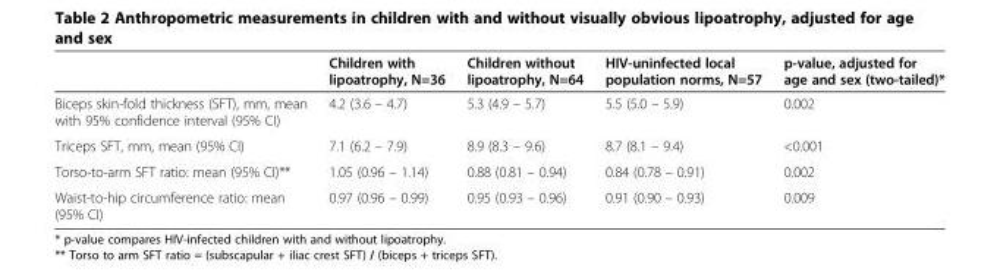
<table><thead><tr><td></td><td>Children with lipoatrophy, N=36</td><td>Children without lipoatrophy, N=64</td><td>HIV-uninfected local population norms, N=57</td><td>p-value, adjusted for age and sex (two-tailed)*</td></tr></thead><tbody><tr><td>Biceps skin-fold thickness (SFT), mm, mean with 95% confidence interval (95% CI)</td><td>4.2 (3.6 – 4.7)</td><td>5.3 (4.9 – 5.7)</td><td>5.5 (5.0 – 5.9)</td><td>0.002</td></tr><tr><td>Triceps SFT, mm, mean (95% CI)</td><td>7.1 (6.2 – 7.9)</td><td>8.9 (8.3 – 9.6)</td><td>8.7 (8.1 – 9.4)</td><td>&lt;0.001</td></tr><tr><td>Torso-to-arm SFT ratio: mean (95% CI)**</td><td>1.05 (0.96 – 1.14)</td><td>0.88 (0.81 – 0.94)</td><td>0.84 (0.78 – 0.91)</td><td>0.002</td></tr><tr><td>Waist-to-hip circumference ratio: mean (95% CI)</td><td>0.97 (0.96 – 0.99)</td><td>0.95 (0.93 – 0.96)</td><td>0.91 (0.90 – 0.93)</td><td>0.009</td></tr></tbody></table>